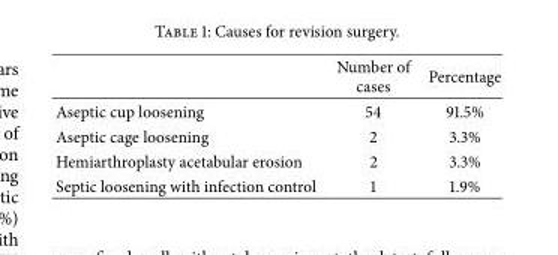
<table><thead><tr><td></td><td>Number of cases</td><td>Percentage</td></tr></thead><tbody><tr><td>Aseptic cup loosening</td><td>54</td><td>91.5%</td></tr><tr><td>Aseptic cage loosening</td><td>2</td><td>3.3%</td></tr><tr><td>Hemiarthroplasty acetabular erosion</td><td>2</td><td>3.3%</td></tr><tr><td>Septic loosening with infection control</td><td>1</td><td>1.9%</td></tr></tbody></table>